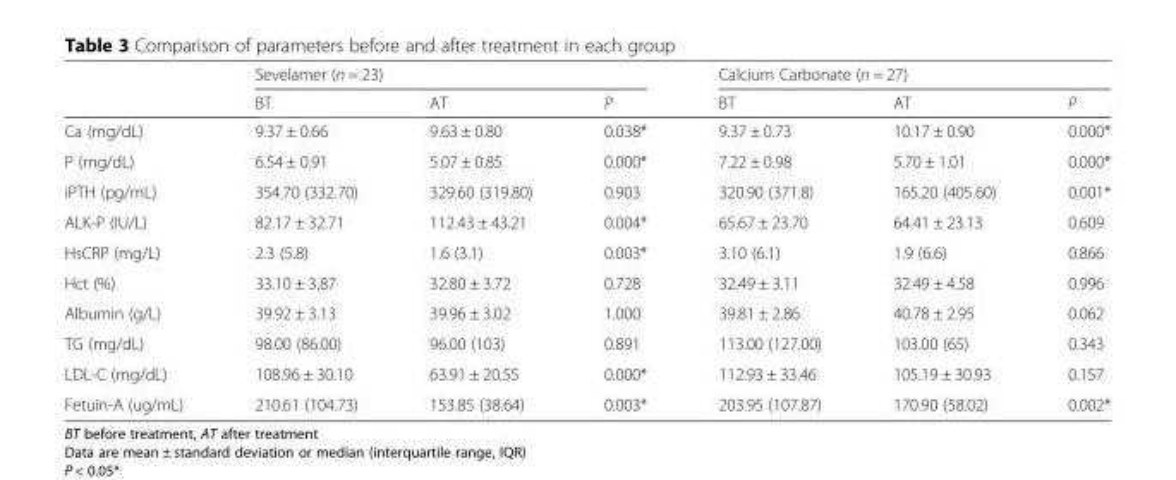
<table><thead><tr><td rowspan="2"></td><td colspan="3">Sevelamer (n = 23)</td><td colspan="3">Calcium Carbonate (n = 27)</td></tr><tr><td>BT</td><td>AT</td><td>P</td><td>BT</td><td>AT</td><td>P</td></tr></thead><tbody><tr><td>Ca (mg/dL)</td><td>9.37 ± 0.66</td><td>9.63 ± 0.80</td><td>0.038*</td><td>9.37 ± 0.73</td><td>10.17 ± 0.90</td><td>0.000*</td></tr><tr><td>P (mg/dL)</td><td>6.54 ± 0.91</td><td>5.07 ± 0.85</td><td>0.000*</td><td>7.22 ± 0.98</td><td>5.70 ± 1.01</td><td>0.000*</td></tr><tr><td>iPTH (pg/mL)</td><td>354.70 (332.70)</td><td>329.60 (319.80)</td><td>0.903</td><td>320.90 (371.8)</td><td>165.20 (405.60)</td><td>0.001*</td></tr><tr><td>ALK-P (IU/L)</td><td>82.17 ± 32.71</td><td>112.43 ± 43.21</td><td>0.004*</td><td>65.67 ± 23.70</td><td>64.41 ± 23.13</td><td>0.609</td></tr><tr><td>HsCRP (mg/L)</td><td>2.3 (5.8)</td><td>1.6 (3.1)</td><td>0.003*</td><td>3.10 (6.1)</td><td>1.9 (6.6)</td><td>0.866</td></tr><tr><td>Hct (%)</td><td>33.10 ± 3.87</td><td>32.80 ± 3.72</td><td>0.728</td><td>32.49 ± 3.11</td><td>32.49 ± 4.58</td><td>0.996</td></tr><tr><td>Albumin (g/L)</td><td>39.92 ± 3.13</td><td>39.96 ± 3.02</td><td>1.000</td><td>39.81 ± 2.86</td><td>40.78 ± 2.95</td><td>0.062</td></tr><tr><td>TG (mg/dL)</td><td>98.00 (86.00)</td><td>96.00 (103)</td><td>0.891</td><td>113.00 (127.00)</td><td>103.00 (65)</td><td>0.343</td></tr><tr><td>LDL-C (mg/dL)</td><td>108.96 ± 30.10</td><td>63.91 ± 20.55</td><td>0.000*</td><td>112.93 ± 33.46</td><td>105.19 ± 30.93</td><td>0.157</td></tr><tr><td>Fetuin-A (ug/mL)</td><td>210.61 (104.73)</td><td>153.85 (38.64)</td><td>0.003*</td><td>203.95 (107.87)</td><td>170.90 (58.02)</td><td>0.002*</td></tr></tbody></table>